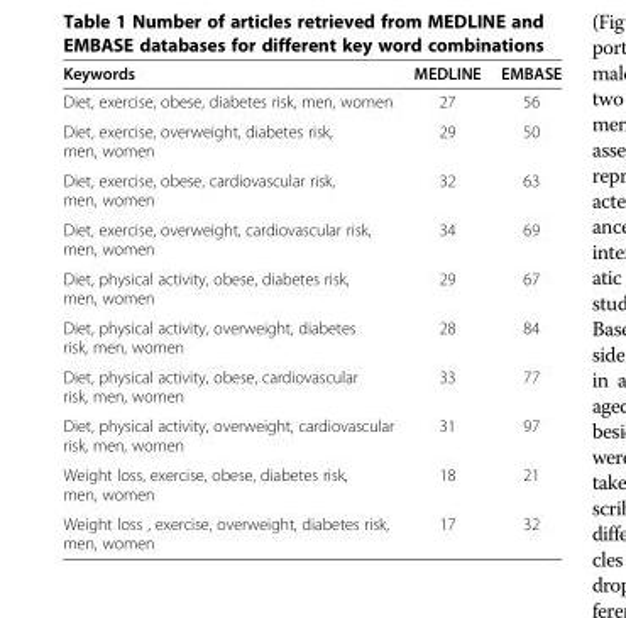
<table><thead><tr><td>Keywords</td><td>MEDLINE</td><td>EMBASE</td></tr></thead><tbody><tr><td>Diet, exercise, obese, diabetes risk, men, women</td><td>27</td><td>56</td></tr><tr><td>Diet, exercise, overweight, diabetes risk, men, women</td><td>29</td><td>50</td></tr><tr><td>Diet, exercise, obese, cardiovascular risk, men, women</td><td>32</td><td>63</td></tr><tr><td>Diet, exercise, overweight, cardiovascular risk, men, women</td><td>34</td><td>69</td></tr><tr><td>Diet, physical activity, obese, diabetes risk, men, women</td><td>29</td><td>67</td></tr><tr><td>Diet, physical activity, overweight, diabetes risk, men, women</td><td>28</td><td>84</td></tr><tr><td>Diet, physical activity, obese, cardiovascular risk, men, women</td><td>33</td><td>77</td></tr><tr><td>Diet, physical activity, overweight, cardiovascular risk, men, women</td><td>31</td><td>97</td></tr><tr><td>Weight loss, exercise, obese, diabetes risk, men, women</td><td>18</td><td>21</td></tr><tr><td>Weight loss , exercise, overweight, diabetes risk, men, women</td><td>17</td><td>32</td></tr></tbody></table>